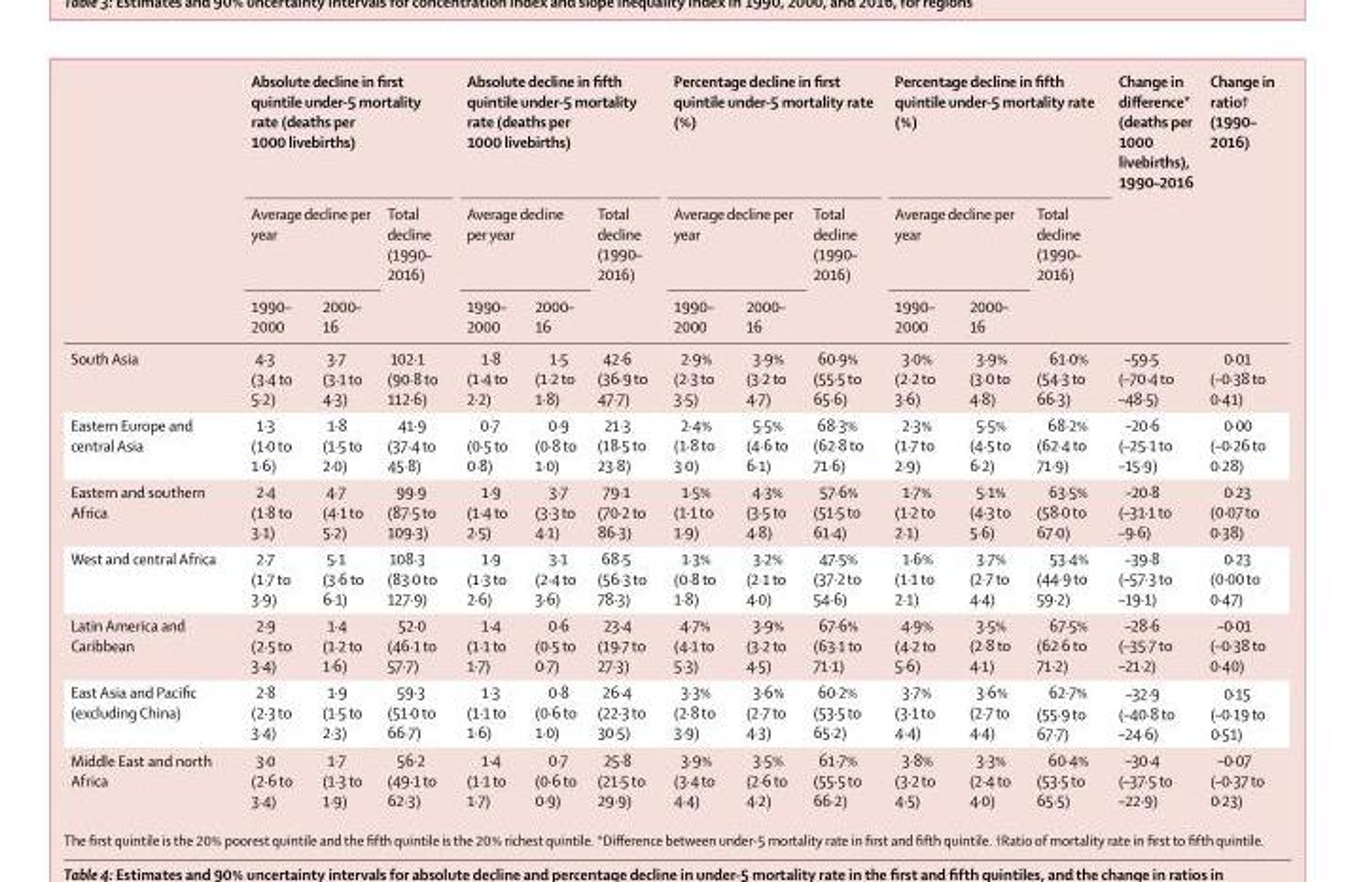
<table><thead><tr><td rowspan="3"></td><td colspan="3">Absolute decline in first quintile under-5 mortality rate (deaths per 1000 livebirths)</td><td colspan="3">Absolute decline in fifth quintile under-5 mortality rate (deaths per 1000 livebirths)</td><td colspan="3">Percentage decline in first quintile under-5 mortality rate (%)</td><td colspan="3">Percentage decline in fifth quintile under-5 mortality rate (%)</td><td rowspan="3">Change in difference* (deaths per 1000 livebirths), 1990–2016</td><td rowspan="3">Change in ratio† (1990– 2016)</td></tr><tr><td colspan="2">Average decline per year</td><td rowspan="2">Total decline (1990– 2016)</td><td colspan="2">Average decline per year</td><td rowspan="2">Total decline (1990– 2016)</td><td colspan="2">Average decline per year</td><td rowspan="2">Total decline (1990– 2016)</td><td colspan="2">Average decline per year</td><td rowspan="2">Total decline (1990– 2016)</td></tr><tr><td>1990– 2000</td><td>2000– 16</td><td>1990– 2000</td><td>2000– 16</td><td>1990– 2000</td><td>2000– 16</td><td>1990– 2000</td><td>2000– 16</td></tr></thead><tbody><tr><td>South Asia</td><td>4·3 (3·4 to 5·2)</td><td>3·7 (3·1 to 4·3)</td><td>102·1 (90·8 to 112·6)</td><td>1·8 (1·4 to 2·2)</td><td>1·5 (1·2 to 1·8)</td><td>42·6 (36·9 to 47·7)</td><td>2·9% (2·3 to 3·5)</td><td>3·9% (3·2 to 4·7)</td><td>60·9% (55·5 to 65·6)</td><td>3·0% (2·2 to 3·6)</td><td>3·9% (3·0 to 4·8)</td><td>61·0% (54·3 to 66·3)</td><td>–59·5 (–70·4 to –48·5)</td><td>0·01 (–0·38 to 0·41)</td></tr><tr><td>Eastern Europe and central Asia</td><td>1·3 (1·0 to 1·6)</td><td>1·8 (1·5 to 2·0)</td><td>41·9 (37·4 to 45·8)</td><td>0·7 (0·5 to 0·8)</td><td>0·9 (0·8 to 1·0)</td><td>21·3 (18·5 to 23·8)</td><td>2·4% (1·8 to 3·0)</td><td>5·5% (4·6 to 6·1)</td><td>68·3% (62·8 to 71·6)</td><td>2·3% (1·7 to 2·9)</td><td>5·5% (4·5 to 6·2)</td><td>68·2% (62·4 to 71·9)</td><td>–20·6 (–25·1 to –15·9)</td><td>0·00 (–0·26 to 0·28)</td></tr><tr><td>Eastern and southern Africa</td><td>2·4 (1·8 to 3·1)</td><td>4·7 (4·1 to 5·2)</td><td>99·9 (87·5 to 109·3)</td><td>1·9 (1·4 to 2·5)</td><td>3·7 (3·3 to 4·1)</td><td>79·1 (70·2 to 86·3)</td><td>1·5% (1·1 to 1·9)</td><td>4·3% (3·5 to 4·8)</td><td>57·6% (51·5 to 61·4)</td><td>1·7% (1·2 to 2·1)</td><td>5·1% (4·3 to 5·6)</td><td>63·5% (58·0 to 67·0)</td><td>–20·8 (–31·1 to –9·6)</td><td>0·23 (0·07 to 0·38)</td></tr><tr><td>West and central Africa</td><td>2·7 (1·7 to 3·9)</td><td>5·1 (3·6 to 6·1)</td><td>108·3 (83·0 to 127·9)</td><td>1·9 (1·3 to 2·6)</td><td>3·1 (2·4 to 3·6)</td><td>68·5 (56·3 to 78·3)</td><td>1·3% (0·8 to 1·8)</td><td>3·2% (2·1 to 4·0)</td><td>47·5% (37·2 to 54·6)</td><td>1·6% (1·1 to 2·1)</td><td>3·7% (2·7 to 4·4)</td><td>53·4% (44·9 to 59·2)</td><td>–39·8 (–57·3 to –19·1)</td><td>0·23 (0·00 to 0·47)</td></tr><tr><td>Latin America and Caribbean</td><td>2·9 (2·5 to 3·4)</td><td>1·4 (1·2 to 1·6)</td><td>52·0 (46·1 to 57·7)</td><td>1·4 (1·1 to 1·7)</td><td>0·6 (0·5 to 0·7)</td><td>23·4 (19·7 to 27·3)</td><td>4·7% (4·1 to 5·3)</td><td>3·9% (3·2 to 4·5)</td><td>67·6% (63·1 to 71·1)</td><td>4·9% (4·2 to 5·6)</td><td>3·5% (2·8 to 4·1)</td><td>67·5% (62·6 to 71·2)</td><td>–28·6 (–35·7 to –21·2)</td><td>–0·01 (–0·38 to 0·40)</td></tr><tr><td>East Asia and Pacific (excluding China)</td><td>2·8 (2·3 to 3·4)</td><td>1·9 (1·5 to 2·3)</td><td>59·3 (51·0 to 66·7)</td><td>1·3 (1·1 to 1·6)</td><td>0·8 (0·6 to 1·0)</td><td>26·4 (22·3 to 30·5)</td><td>3·3% (2·8 to 3·9)</td><td>3·6% (2·7 to 4·3)</td><td>60·2% (53·5 to 65·2)</td><td>3·7% (3·1 to 4·4)</td><td>3·6% (2·7 to 4·4)</td><td>62·7% (55·9 to 67·7)</td><td>–32·9 (–40·8 to –24·6)</td><td>0·15 (–0·19 to 0·51)</td></tr><tr><td>Middle East and north Africa</td><td>3·0 (2·6 to 3·4)</td><td>1·7 (1·3 to 1·9)</td><td>56·2 (49·1 to 62·3)</td><td>1·4 (1·1 to 1·7)</td><td>0·7 (0·6 to 0·9)</td><td>25·8 (21·5 to 29·9)</td><td>3·9% (3·4 to 4·4)</td><td>3·5% (2·6 to 4·2)</td><td>61·7% (55·5 to 66·2)</td><td>3·8% (3·2 to 4·5)</td><td>3·3% (2·4 to 4·0)</td><td>60·4% (53·5 to 65·5)</td><td>–30·4 (–37·5 to –22·9)</td><td>–0·07 (–0·37 to 0·23)</td></tr></tbody></table>